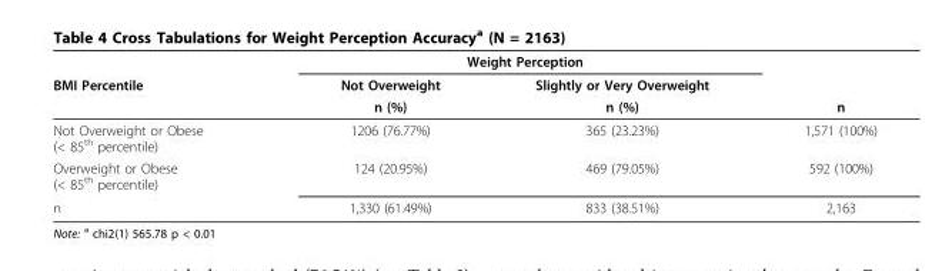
<table><thead><tr><td rowspan="3">BMI Percentile</td><td colspan="2">Weight Perception</td><td rowspan="3">n</td></tr><tr><td rowspan="2">Not Overweight n (%)</td><td rowspan="2">Slightly or Very Overweight n (%)</td></tr><tr></tr></thead><tbody><tr><td>Not Overweight or Obese (&lt; 85<sup>th</sup> percentile)</td><td>1206 (76.77%)</td><td>365 (23.23%)</td><td>1,571 (100%)</td></tr><tr><td>Overweight or Obese (&lt; 85<sup>th</sup> percentile)</td><td>124 (20.95%)</td><td>469 (79.05%)</td><td>592 (100%)</td></tr><tr><td>n</td><td>1,330 (61.49%)</td><td>833 (38.51%)</td><td>2,163</td></tr></tbody></table>